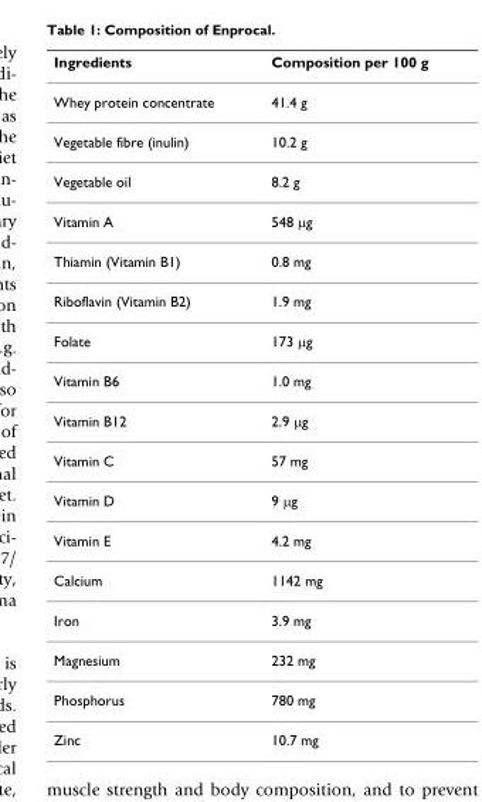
<table><thead><tr><td>Ingredients</td><td>Composition per 100 g</td></tr></thead><tbody><tr><td>Whey protein concentrate</td><td>41.4 g</td></tr><tr><td>Vegetable fibre (inulin)</td><td>10.2 g</td></tr><tr><td>Vegetable oil</td><td>8.2 g</td></tr><tr><td>Vitamin A</td><td>548 μg</td></tr><tr><td>Thiamin (Vitamin B1)</td><td>0.8 mg</td></tr><tr><td>Riboflavin (Vitamin B2)</td><td>1.9 mg</td></tr><tr><td>Folate</td><td>173 μg</td></tr><tr><td>Vitamin B6</td><td>1.0 mg</td></tr><tr><td>Vitamin B12</td><td>2.9 μg</td></tr><tr><td>Vitamin C</td><td>57 mg</td></tr><tr><td>Vitamin D</td><td>9 μg</td></tr><tr><td>Vitamin E</td><td>4.2 mg</td></tr><tr><td>Calcium</td><td>1142 mg</td></tr><tr><td>Iron</td><td>3.9 mg</td></tr><tr><td>Magnesium</td><td>232 mg</td></tr><tr><td>Phosphorus</td><td>780 mg</td></tr><tr><td>Zinc</td><td>10.7 mg</td></tr></tbody></table>